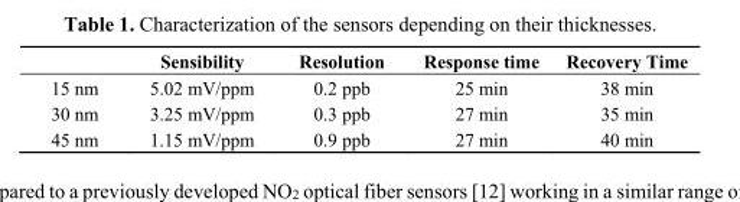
<table><thead><tr><td></td><td>Sensibility</td><td>Resolution</td><td>Response time</td><td>Recovery Time</td></tr></thead><tbody><tr><td>15 nm</td><td>5.02 mV/ppm</td><td>0.2 ppb</td><td>25 min</td><td>38 min</td></tr><tr><td>30 nm</td><td>3.25 mV/ppm</td><td>0.3 ppb</td><td>27 min</td><td>35 min</td></tr><tr><td>45 nm</td><td>1.15 mV/ppm</td><td>0.9 ppb</td><td>27 min</td><td>40 min</td></tr></tbody></table>